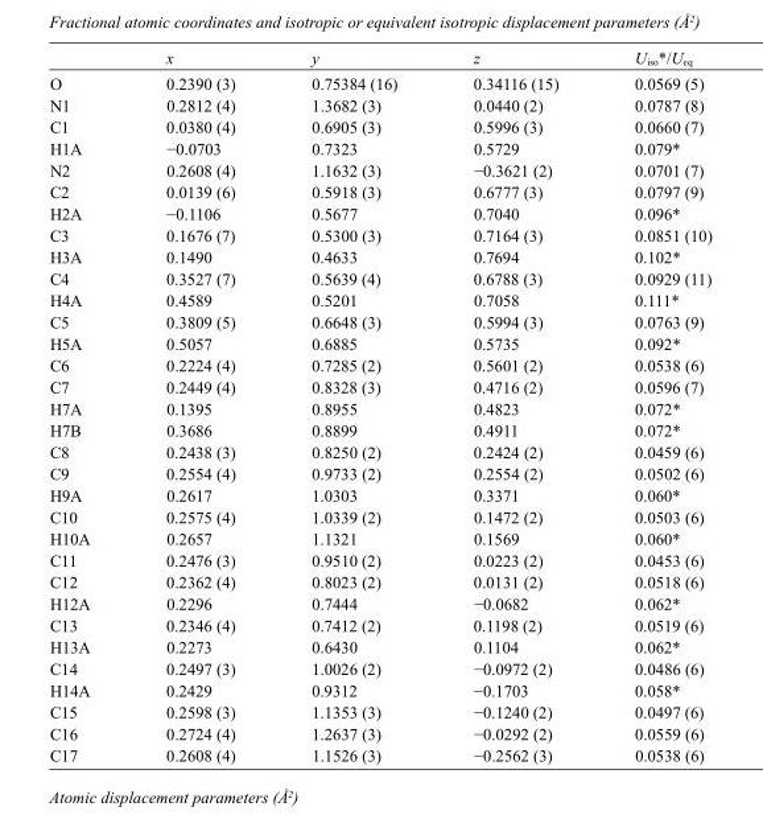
<table><thead><tr><td></td><td>x</td><td>y</td><td>z</td><td>U<sub>iso</sub>*/U<sub>eq</sub></td></tr></thead><tbody><tr><td>O</td><td>0.2390 (3)</td><td>0.75384 (16)</td><td>0.34116 (15)</td><td>0.0569 (5)</td></tr><tr><td>N1</td><td>0.2812 (4)</td><td>1.3682 (3)</td><td>0.0440 (2)</td><td>0.0787 (8)</td></tr><tr><td>C1</td><td>0.0380 (4)</td><td>0.6905 (3)</td><td>0.5996 (3)</td><td>0.0660 (7)</td></tr><tr><td>H1A</td><td>−0.0703</td><td>0.7323</td><td>0.5729</td><td>0.079*</td></tr><tr><td>N2</td><td>0.2608 (4)</td><td>1.1632 (3)</td><td>−0.3621 (2)</td><td>0.0701 (7)</td></tr><tr><td>C2</td><td>0.0139 (6)</td><td>0.5918 (3)</td><td>0.6777 (3)</td><td>0.0797 (9)</td></tr><tr><td>H2A</td><td>−0.1106</td><td>0.5677</td><td>0.7040</td><td>0.096*</td></tr><tr><td>C3</td><td>0.1676 (7)</td><td>0.5300 (3)</td><td>0.7164 (3)</td><td>0.0851 (10)</td></tr><tr><td>H3A</td><td>0.1490</td><td>0.4633</td><td>0.7694</td><td>0.102*</td></tr><tr><td>C4</td><td>0.3527 (7)</td><td>0.5639 (4)</td><td>0.6788 (3)</td><td>0.0929 (11)</td></tr><tr><td>H4A</td><td>0.4589</td><td>0.5201</td><td>0.7058</td><td>0.111*</td></tr><tr><td>C5</td><td>0.3809 (5)</td><td>0.6648 (3)</td><td>0.5994 (3)</td><td>0.0763 (9)</td></tr><tr><td>H5A</td><td>0.5057</td><td>0.6885</td><td>0.5735</td><td>0.092*</td></tr><tr><td>C6</td><td>0.2224 (4)</td><td>0.7285 (2)</td><td>0.5601 (2)</td><td>0.0538 (6)</td></tr><tr><td>C7</td><td>0.2449 (4)</td><td>0.8328 (3)</td><td>0.4716 (2)</td><td>0.0596 (7)</td></tr><tr><td>H7A</td><td>0.1395</td><td>0.8955</td><td>0.4823</td><td>0.072*</td></tr><tr><td>H7B</td><td>0.3686</td><td>0.8899</td><td>0.4911</td><td>0.072*</td></tr><tr><td>C8</td><td>0.2438 (3)</td><td>0.8250 (2)</td><td>0.2424 (2)</td><td>0.0459 (6)</td></tr><tr><td>C9</td><td>0.2554 (4)</td><td>0.9733 (2)</td><td>0.2554 (2)</td><td>0.0502 (6)</td></tr><tr><td>H9A</td><td>0.2617</td><td>1.0303</td><td>0.3371</td><td>0.060*</td></tr><tr><td>C10</td><td>0.2575 (4)</td><td>1.0339 (2)</td><td>0.1472 (2)</td><td>0.0503 (6)</td></tr><tr><td>H10A</td><td>0.2657</td><td>1.1321</td><td>0.1569</td><td>0.060*</td></tr><tr><td>C11</td><td>0.2476 (3)</td><td>0.9510 (2)</td><td>0.0223 (2)</td><td>0.0453 (6)</td></tr><tr><td>C12</td><td>0.2362 (4)</td><td>0.8023 (2)</td><td>0.0131 (2)</td><td>0.0518 (6)</td></tr><tr><td>H12A</td><td>0.2296</td><td>0.7444</td><td>−0.0682</td><td>0.062*</td></tr><tr><td>C13</td><td>0.2346 (4)</td><td>0.7412 (2)</td><td>0.1198 (2)</td><td>0.0519 (6)</td></tr><tr><td>H13A</td><td>0.2273</td><td>0.6430</td><td>0.1104</td><td>0.062*</td></tr><tr><td>C14</td><td>0.2497 (3)</td><td>1.0026 (2)</td><td>−0.0972 (2)</td><td>0.0486 (6)</td></tr><tr><td>H14A</td><td>0.2429</td><td>0.9312</td><td>−0.1703</td><td>0.058*</td></tr><tr><td>C15</td><td>0.2598 (3)</td><td>1.1353 (3)</td><td>−0.1240 (2)</td><td>0.0497 (6)</td></tr><tr><td>C16</td><td>0.2724 (4)</td><td>1.2637 (3)</td><td>−0.0292 (2)</td><td>0.0559 (6)</td></tr><tr><td>C17</td><td>0.2608 (4)</td><td>1.1526 (3)</td><td>−0.2562 (3)</td><td>0.0538 (6)</td></tr></tbody></table>